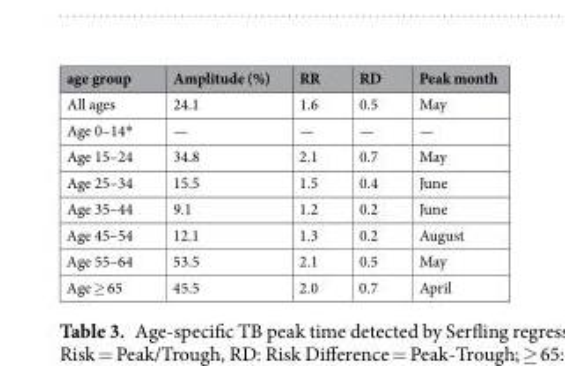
<table><thead><tr><td>age group</td><td>Amplitude (%)</td><td>RR</td><td>RD</td><td>Peak month</td></tr></thead><tbody><tr><td>All ages</td><td>24.1</td><td>1.6</td><td>0.5</td><td>May</td></tr><tr><td>Age 0–14*</td><td>—</td><td>—</td><td>—</td><td>—</td></tr><tr><td>Age 15–24</td><td>34.8</td><td>2.1</td><td>0.7</td><td>May</td></tr><tr><td>Age 25–34</td><td>15.5</td><td>1.5</td><td>0.4</td><td>June</td></tr><tr><td>Age 35–44</td><td>9.1</td><td>1.2</td><td>0.2</td><td>June</td></tr><tr><td>Age 45–54</td><td>12.1</td><td>1.3</td><td>0.2</td><td>August</td></tr><tr><td>Age 55–64</td><td>53.5</td><td>2.1</td><td>0.5</td><td>May</td></tr><tr><td>Age ≥ 65</td><td>45.5</td><td>2.0</td><td>0.7</td><td>April</td></tr></tbody></table>